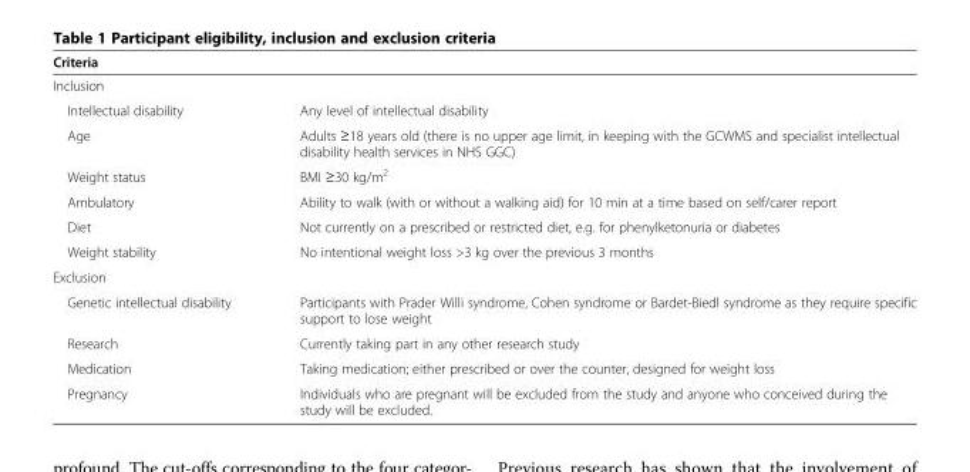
<table><thead><tr><td>Criteria</td><td></td></tr></thead><tbody><tr><td colspan="2">Inclusion</td></tr><tr><td>Intellectual disability</td><td>Any level of intellectual disability</td></tr><tr><td>Age</td><td>Adults ≥18 years old (there is no upper age limit, in keeping with the GCWMS and specialist intellectual disability health services in NHS GGC)</td></tr><tr><td>Weight status</td><td>BMI ≥30 kg/m<sup>2</sup></td></tr><tr><td>Ambulatory</td><td>Ability to walk (with or without a walking aid) for 10 min at a time based on self/carer report</td></tr><tr><td>Diet</td><td>Not currently on a prescribed or restricted diet, e.g. for phenylketonuria or diabetes</td></tr><tr><td>Weight stability</td><td>No intentional weight loss &gt;3 kg over the previous 3 months</td></tr><tr><td colspan="2">Exclusion</td></tr><tr><td>Genetic intellectual disability</td><td>Participants with Prader Willi syndrome, Cohen syndrome or Bardet-Biedl syndrome as they require specific support to lose weight</td></tr><tr><td>Research</td><td>Currently taking part in any other research study</td></tr><tr><td>Medication</td><td>Taking medication; either prescribed or over the counter, designed for weight loss</td></tr><tr><td>Pregnancy</td><td>Individuals who are pregnant will be excluded from the study and anyone who conceived during the study will be excluded.</td></tr></tbody></table>